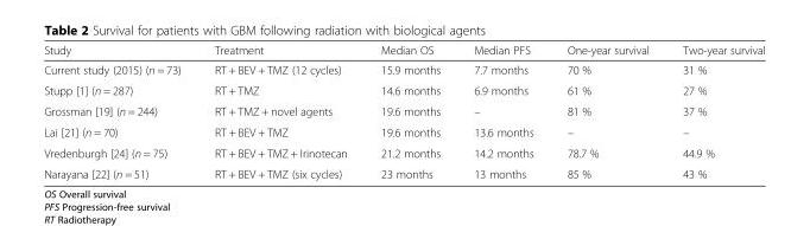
<table><thead><tr><td>Study</td><td>Treatment</td><td>Median OS</td><td>Median PFS</td><td>One-year survival</td><td>Two-year survival</td></tr></thead><tbody><tr><td>Current study (2015) (n = 73)</td><td>RT + BEV + TMZ (12 cycles)</td><td>15.9 months</td><td>7.7 months</td><td>70 %</td><td>31 %</td></tr><tr><td>Stupp [1] (n = 287)</td><td>RT + TMZ</td><td>14.6 months</td><td>6.9 months</td><td>61 %</td><td>27 %</td></tr><tr><td>Grossman [19] (n = 244)</td><td>RT + TMZ + novel agents</td><td>19.6 months</td><td>–</td><td>81 %</td><td>37 %</td></tr><tr><td>Lai [21] (n = 70)</td><td>RT + BEV + TMZ</td><td>19.6 months</td><td>13.6 months</td><td>–</td><td>–</td></tr><tr><td>Vredenburgh [24] (n = 75)</td><td>RT + BEV + TMZ + Irinotecan</td><td>21.2 months</td><td>14.2 months</td><td>78.7 %</td><td>44.9 %</td></tr><tr><td>Narayana [22] (n = 51)</td><td>RT + BEV + TMZ (six cycles)</td><td>23 months</td><td>13 months</td><td>85 %</td><td>43 %</td></tr></tbody></table>